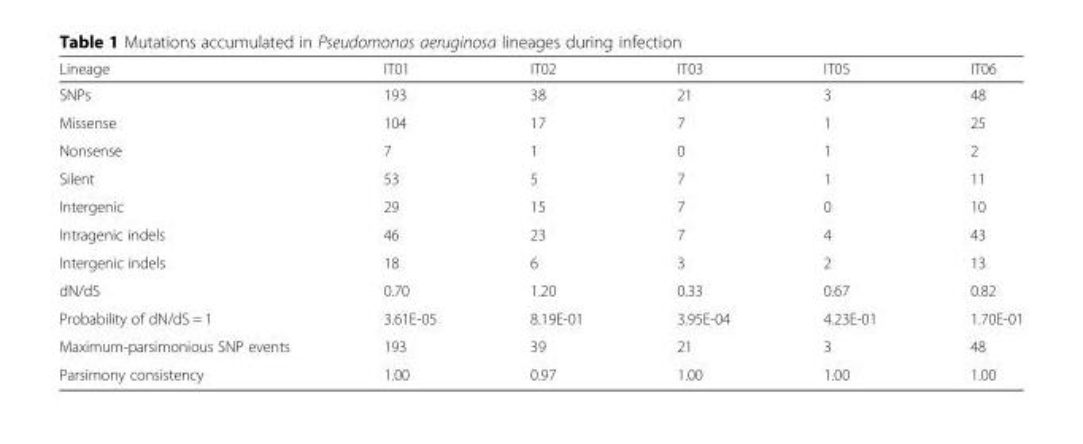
<table><thead><tr><td>Lineage</td><td>IT01</td><td>IT02</td><td>IT03</td><td>IT05</td><td>IT06</td></tr></thead><tbody><tr><td>SNPs</td><td>193</td><td>38</td><td>21</td><td>3</td><td>48</td></tr><tr><td>Missense</td><td>104</td><td>17</td><td>7</td><td>1</td><td>25</td></tr><tr><td>Nonsense</td><td>7</td><td>1</td><td>0</td><td>1</td><td>2</td></tr><tr><td>Silent</td><td>53</td><td>5</td><td>7</td><td>1</td><td>11</td></tr><tr><td>Intergenic</td><td>29</td><td>15</td><td>7</td><td>0</td><td>10</td></tr><tr><td>Intragenic indels</td><td>46</td><td>23</td><td>7</td><td>4</td><td>43</td></tr><tr><td>Intergenic indels</td><td>18</td><td>6</td><td>3</td><td>2</td><td>13</td></tr><tr><td>dN/dS</td><td>0.70</td><td>1.20</td><td>0.33</td><td>0.67</td><td>0.82</td></tr><tr><td>Probability of dN/dS = 1</td><td>3.61E-05</td><td>8.19E-01</td><td>3.95E-04</td><td>4.23E-01</td><td>1.70E-01</td></tr><tr><td>Maximum-parsimonious SNP events</td><td>193</td><td>39</td><td>21</td><td>3</td><td>48</td></tr><tr><td>Parsimony consistency</td><td>1.00</td><td>0.97</td><td>1.00</td><td>1.00</td><td>1.00</td></tr></tbody></table>